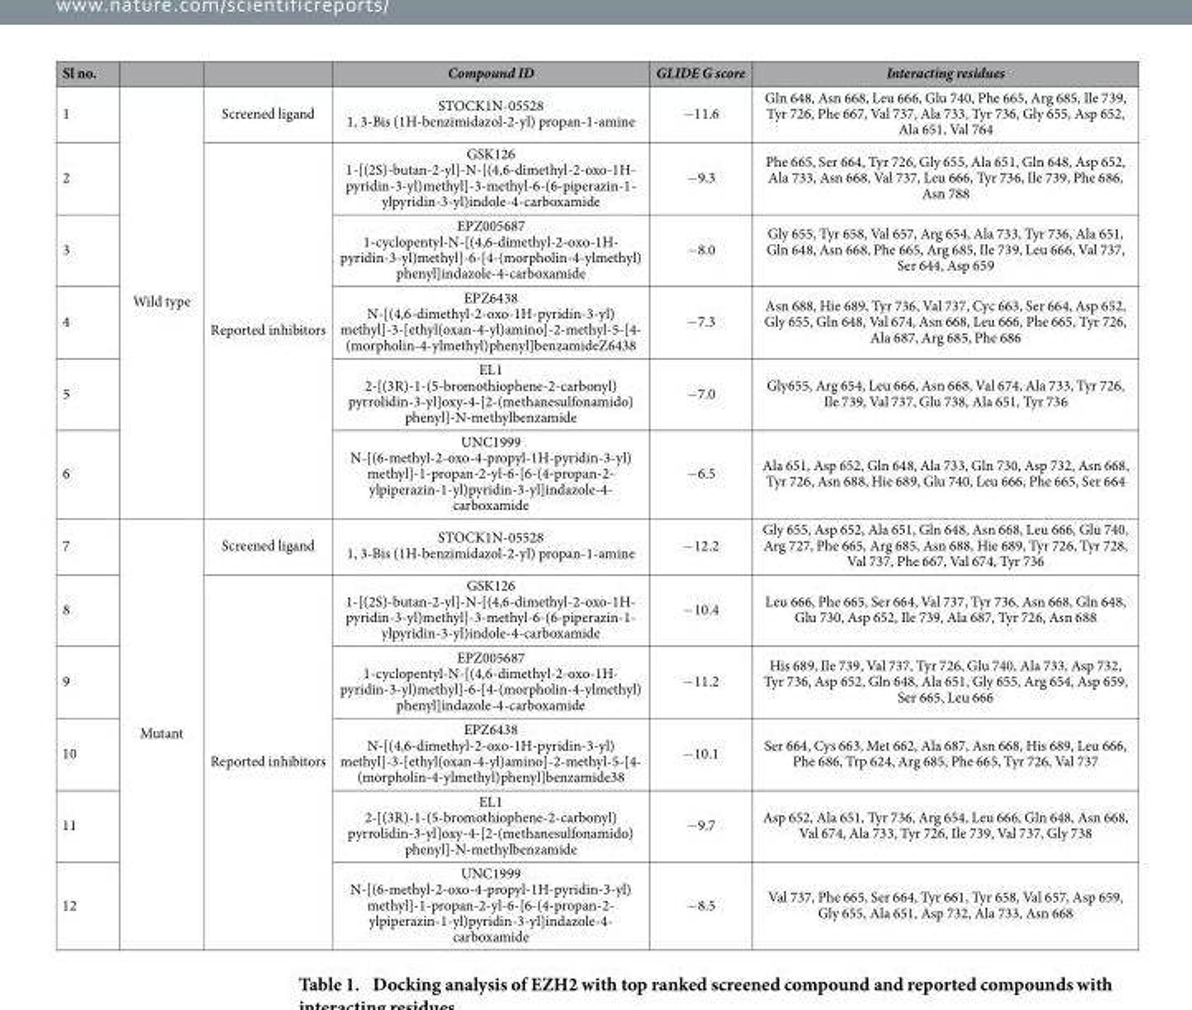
<table><thead><tr><td>Sl no.</td><td></td><td></td><td>Compound ID</td><td>GLIDE G score</td><td>Interacting residues</td></tr></thead><tbody><tr><td>1</td><td rowspan="6">Wild type</td><td>Screened ligand</td><td>STOCK1N-05528 1, 3-Bis (1H-benzimidazol-2-yl) propan-1-amine</td><td>− 11.6</td><td>Gln 648, Asn 668, Leu 666, Glu 740, Phe 665, Arg 685, Ile 739, Tyr 726, Phe 667, Val 737, Ala 733, Tyr 736, Gly 655, Asp 652, Ala 651, Val 764</td></tr><tr><td>2</td><td rowspan="5">Reported inhibitors</td><td>GSK126 1-[(2S)-butan-2-yl]-N-[(4,6-dimethyl-2-oxo-1H- pyridin-3-yl)methyl]-3-methyl-6-(6-piperazin-1- ylpyridin-3-yl)indole-4-carboxamide</td><td>− 9.3</td><td>Phe 665, Ser 664, Tyr 726, Gly 655, Ala 651, Gln 648, Asp 652, Ala 733, Asn 668, Val 737, Leu 666, Tyr 736, Ile 739, Phe 686, Asn 788</td></tr><tr><td>3</td><td>EPZ005687 1-cyclopentyl-N-[(4,6-dimethyl-2-oxo-1H- pyridin-3-yl)methyl]-6-[4-(morpholin-4-ylmethyl) phenyl]indazole-4-carboxamide</td><td>− 8.0</td><td>Gly 655, Tyr 658, Val 657, Arg 654, Ala 733, Tyr 736, Ala 651, Gln 648, Asn 668, Phe 665, Arg 685, Ile 739, Leu 666, Val 737, Ser 644, Asp 659</td></tr><tr><td>4</td><td>EPZ6438 N-[(4,6-dimethyl-2-oxo-1H-pyridin-3-yl) methyl]-3-[ethyl(oxan-4-yl)amino]-2-methyl-5-[4- (morpholin-4-ylmethyl)phenyl]benzamideZ6438</td><td>− 7.3</td><td>Asn 688, Hie 689, Tyr 736, Val 737, Cyc 663, Ser 664, Asp 652, Gly 655, Gln 648, Val 674, Asn 668, Leu 666, Phe 665, Tyr 726, Ala 687, Arg 685, Phe 686</td></tr><tr><td>5</td><td>EL1 2-[(3R)-1-(5-bromothiophene-2-carbonyl) pyrrolidin-3-yl]oxy-4-[2-(methanesulfonamido) phenyl]-N-methylbenzamide</td><td>− 7.0</td><td>Gly655, Arg 654, Leu 666, Asn 668, Val 674, Ala 733, Tyr 726, Ile 739, Val 737, Glu 738, Ala 651, Tyr 736</td></tr><tr><td>6</td><td>UNC1999 N-[(6-methyl-2-oxo-4-propyl-1H-pyridin-3-yl) methyl]-1-propan-2-yl-6-[6-(4-propan-2- ylpiperazin-1-yl)pyridin-3-yl]indazole-4- carboxamide</td><td>− 6.5</td><td>Ala 651, Asp 652, Gln 648, Ala 733, Gln 730, Asp 732, Asn 668, Tyr 726, Asn 688, Hie 689, Glu 740, Leu 666, Phe 665, Ser 664</td></tr><tr><td>7</td><td rowspan="6">Mutant</td><td>Screened ligand</td><td>STOCK1N-05528 1, 3-Bis (1H-benzimidazol-2-yl) propan-1-amine</td><td>− 12.2</td><td>Gly 655, Asp 652, Ala 651, Gln 648, Asn 668, Leu 666, Glu 740, Arg 727, Phe 665, Arg 685, Asn 688, Hie 689, Tyr 726, Tyr 728, Val 737, Phe 667, Val 674, Tyr 736</td></tr><tr><td>8</td><td rowspan="5">Reported inhibitors</td><td>GSK126 1-[(2S)-butan-2-yl]-N-[(4,6-dimethyl-2-oxo-1H- pyridin-3-yl)methyl]-3-methyl-6-(6-piperazin-1- ylpyridin-3-yl)indole-4-carboxamide</td><td>− 10.4</td><td>Leu 666, Phe 665, Ser 664, Val 737, Tyr 736, Asn 668, Gln 648, Glu 730, Asp 652, Ile 739, Ala 687, Tyr 726, Asn 688</td></tr><tr><td>9</td><td>EPZ005687 1-cyclopentyl-N-[(4,6-dimethyl-2-oxo-1H- pyridin-3-yl)methyl]-6-[4-(morpholin-4-ylmethyl) phenyl]indazole-4-carboxamide</td><td>− 11.2</td><td>His 689, Ile 739, Val 737, Tyr 726, Glu 740, Ala 733, Asp 732, Tyr 736, Asp 652, Gln 648, Ala 651, Gly 655, Arg 654, Asp 659, Ser 665, Leu 666</td></tr><tr><td>10</td><td>EPZ6438 N-[(4,6-dimethyl-2-oxo-1H-pyridin-3-yl) methyl]-3-[ethyl(oxan-4-yl)amino]-2-methyl-5-[4- (morpholin-4-ylmethyl)phenyl]benzamide38</td><td>− 10.1</td><td>Ser 664, Cys 663, Met 662, Ala 687, Asn 668, His 689, Leu 666, Phe 686, Trp 624, Arg 685, Phe 665, Tyr 726, Val 737</td></tr><tr><td>11</td><td>EL1 2-[(3R)-1-(5-bromothiophene-2-carbonyl) pyrrolidin-3-yl]oxy-4-[2-(methanesulfonamido) phenyl]-N-methylbenzamide</td><td>− 9.7</td><td>Asp 652, Ala 651, Tyr 736, Arg 654, Leu 666, Gln 648, Asn 668, Val 674, Ala 733, Tyr 726, Ile 739, Val 737, Gly 738</td></tr><tr><td>12</td><td>UNC1999 N-[(6-methyl-2-oxo-4-propyl-1H-pyridin-3-yl) methyl]-1-propan-2-yl-6-[6-(4-propan-2- ylpiperazin-1-yl)pyridin-3-yl]indazole-4- carboxamide</td><td>− 8.5</td><td>Val 737, Phe 665, Ser 664, Tyr 661, Tyr 658, Val 657, Asp 659, Gly 655, Ala 651, Asp 732, Ala 733, Asn 668</td></tr></tbody></table>